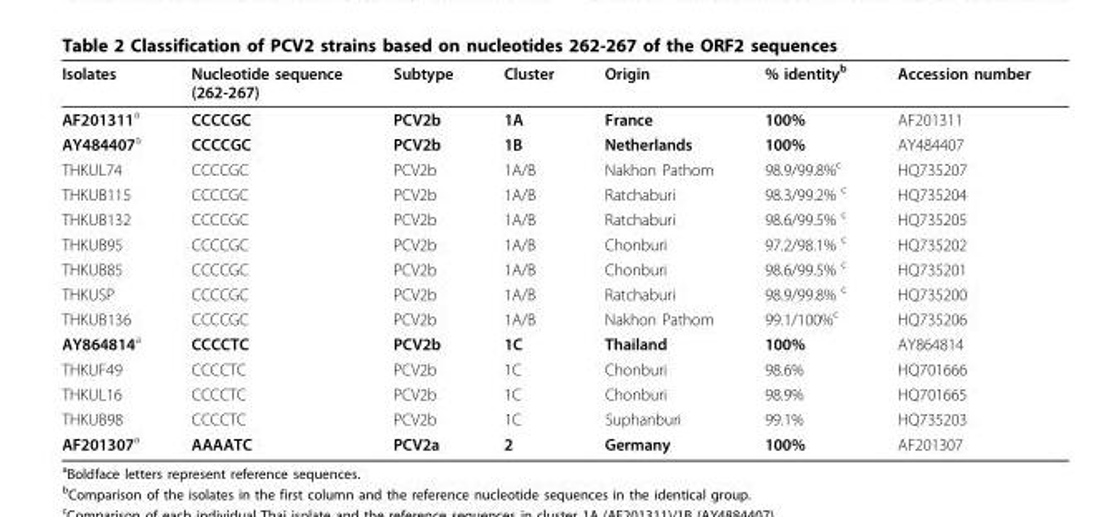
<table><thead><tr><td>Isolates</td><td>Nucleotide sequence (262-267)</td><td>Subtype</td><td>Cluster</td><td>Origin</td><td>% identity<sup>b</sup></td><td>Accession number</td></tr></thead><tbody><tr><td>AF201311<sup>a</sup></td><td>CCCCGC</td><td>PCV2b</td><td>1A</td><td>France</td><td>100%</td><td>AF201311</td></tr><tr><td>AY484407<sup>a</sup></td><td>CCCCGC</td><td>PCV2b</td><td>1B</td><td>Netherlands</td><td>100%</td><td>AY484407</td></tr><tr><td>THKUL74</td><td>CCCCGC</td><td>PCV2b</td><td>1A/B</td><td>Nakhon Pathom</td><td>98.9/99.8%<sup>c</sup></td><td>HQ735207</td></tr><tr><td>THKUB115</td><td>CCCCGC</td><td>PCV2b</td><td>1A/B</td><td>Ratchaburi</td><td>98.3/99.2% <sup>c</sup></td><td>HQ735204</td></tr><tr><td>THKUB132</td><td>CCCCGC</td><td>PCV2b</td><td>1A/B</td><td>Ratchaburi</td><td>98.6/99.5% <sup>c</sup></td><td>HQ735205</td></tr><tr><td>THKUB95</td><td>CCCCGC</td><td>PCV2b</td><td>1A/B</td><td>Chonburi</td><td>97.2/98.1% <sup>c</sup></td><td>HQ735202</td></tr><tr><td>THKUB85</td><td>CCCCGC</td><td>PCV2b</td><td>1A/B</td><td>Chonburi</td><td>98.6/99.5% <sup>c</sup></td><td>HQ735201</td></tr><tr><td>THKUSP</td><td>CCCCGC</td><td>PCV2b</td><td>1A/B</td><td>Ratchaburi</td><td>98.9/99.8% <sup>c</sup></td><td>HQ735200</td></tr><tr><td>THKUB136</td><td>CCCCGC</td><td>PCV2b</td><td>1A/B</td><td>Nakhon Pathom</td><td>99.1/100%<sup>c</sup></td><td>HQ735206</td></tr><tr><td>AY864814<sup>a</sup></td><td>CCCCTC</td><td>PCV2b</td><td>1C</td><td>Thailand</td><td>100%</td><td>AY864814</td></tr><tr><td>THKUF49</td><td>CCCCTC</td><td>PCV2b</td><td>1C</td><td>Chonburi</td><td>98.6%</td><td>HQ701666</td></tr><tr><td>THKUL16</td><td>CCCCTC</td><td>PCV2b</td><td>1C</td><td>Chonburi</td><td>98.9%</td><td>HQ701665</td></tr><tr><td>THKUB98</td><td>CCCCTC</td><td>PCV2b</td><td>1C</td><td>Suphanburi</td><td>99.1%</td><td>HQ735203</td></tr><tr><td>AF201307<sup>a</sup></td><td>AAAATC</td><td>PCV2a</td><td>2</td><td>Germany</td><td>100%</td><td>AF201307</td></tr></tbody></table>